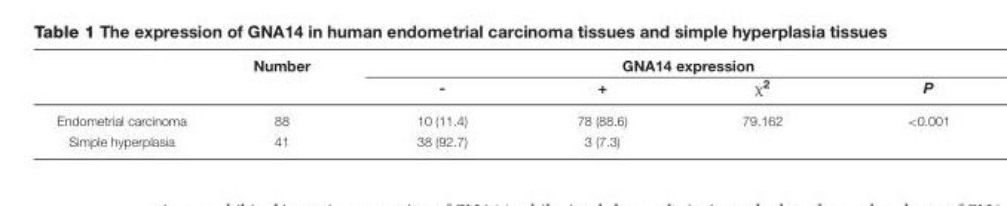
<table><thead><tr><td rowspan="2"></td><td rowspan="2">Number</td><td colspan="4">GNA14 expression</td></tr><tr><td>-</td><td>+</td><td>χ2</td><td>P</td></tr></thead><tbody><tr><td>Endometrial carcinoma</td><td>88</td><td>10 (11.4)</td><td>78 (88.6)</td><td>79.162</td><td>&lt;0.001</td></tr><tr><td>Simple hyperplasia</td><td>41</td><td>38 (92.7)</td><td>3 (7.3)</td><td></td><td></td></tr></tbody></table>